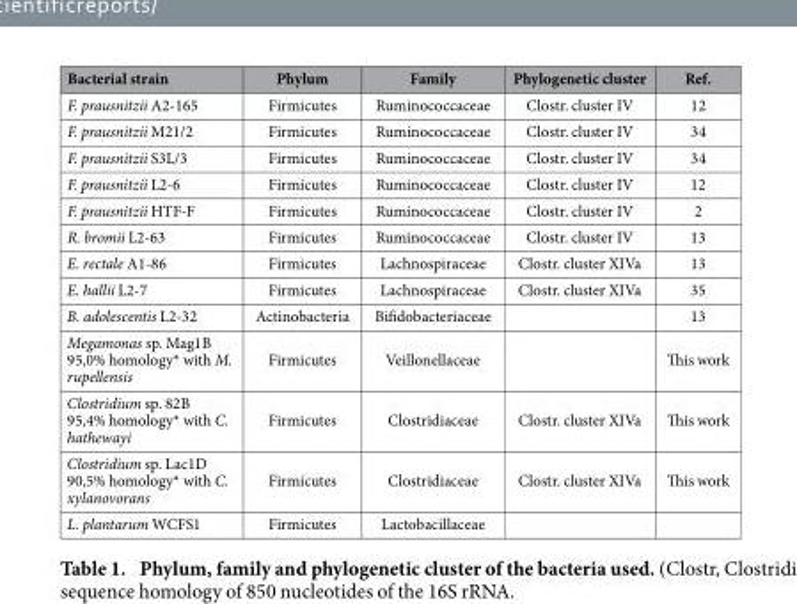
<table><thead><tr><td>Bacterial strain</td><td>Phylum</td><td>Family</td><td>Phylogenetic cluster</td><td>Ref.</td></tr></thead><tbody><tr><td>F. prausnitzii A2-165</td><td>Firmicutes</td><td>Ruminococcaceae</td><td>Clostr. cluster IV</td><td>12</td></tr><tr><td>F. prausnitzii M21/2</td><td>Firmicutes</td><td>Ruminococcaceae</td><td>Clostr. cluster IV</td><td>34</td></tr><tr><td>F. prausnitzii S3L/3</td><td>Firmicutes</td><td>Ruminococcaceae</td><td>Clostr. cluster IV</td><td>34</td></tr><tr><td>F. prausnitzii L2-6</td><td>Firmicutes</td><td>Ruminococcaceae</td><td>Clostr. cluster IV</td><td>12</td></tr><tr><td>F. prausnitzii HTF-F</td><td>Firmicutes</td><td>Ruminococcaceae</td><td>Clostr. cluster IV</td><td>2</td></tr><tr><td>R. bromii L2-63</td><td>Firmicutes</td><td>Ruminococcaceae</td><td>Clostr. cluster IV</td><td>13</td></tr><tr><td>E. rectale A1-86</td><td>Firmicutes</td><td>Lachnospiraceae</td><td>Clostr. cluster XIVa</td><td>13</td></tr><tr><td>E. hallii L2-7</td><td>Firmicutes</td><td>Lachnospiraceae</td><td>Clostr. cluster XIVa</td><td>35</td></tr><tr><td>B. adolescentis L2-32</td><td>Actinobacteria</td><td>Bifidobacteriaceae</td><td></td><td>13</td></tr><tr><td>Megamonas sp. Mag1B 95,0% homology* with M. rupellensis</td><td>Firmicutes</td><td>Veillonellaceae</td><td></td><td>This work</td></tr><tr><td>Clostridium sp. 82B 95,4% homology* with C. hathewayi</td><td>Firmicutes</td><td>Clostridiaceae</td><td>Clostr. cluster XIVa</td><td>This work</td></tr><tr><td>Clostridium sp. Lac1D 90,5% homology* with C. xylanovorans</td><td>Firmicutes</td><td>Clostridiaceae</td><td>Clostr. cluster XIVa</td><td>This work</td></tr><tr><td>L. plantarum WCFS1</td><td>Firmicutes</td><td>Lactobacillaceae</td><td></td><td></td></tr></tbody></table>